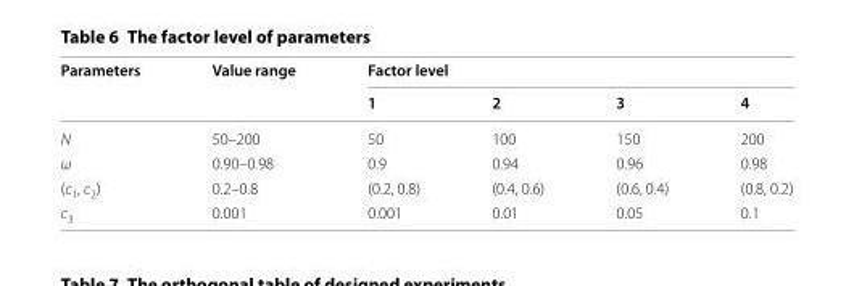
<table><thead><tr><td rowspan="2">Parameters</td><td rowspan="2">Value range</td><td colspan="4">Factor level</td></tr><tr><td>1</td><td>2</td><td>3</td><td>4</td></tr></thead><tbody><tr><td>N</td><td>50–200</td><td>50</td><td>100</td><td>150</td><td>200</td></tr><tr><td>ω</td><td>0.90–0.98</td><td>0.9</td><td>0.94</td><td>0.96</td><td>0.98</td></tr><tr><td>(c<sub>1</sub>, c<sub>2</sub>)</td><td>0.2–0.8</td><td>(0.2, 0.8)</td><td>(0.4, 0.6)</td><td>(0.6, 0.4)</td><td>(0.8, 0.2)</td></tr><tr><td>c<sub>3</sub></td><td>0.001</td><td>0.001</td><td>0.01</td><td>0.05</td><td>0.1</td></tr></tbody></table>